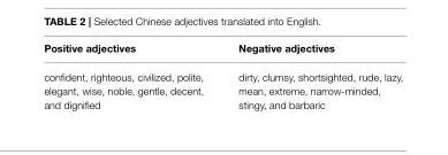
<table><thead><tr><td>Positive adjectives</td><td>Negative adjectives</td></tr></thead><tbody><tr><td>confident, righteous, civilized, polite, elegant, wise, noble, gentle, decent, and dignified</td><td>dirty, clumsy, shortsighted, rude, lazy, mean, extreme, narrow-minded, stingy, and barbaric</td></tr></tbody></table>